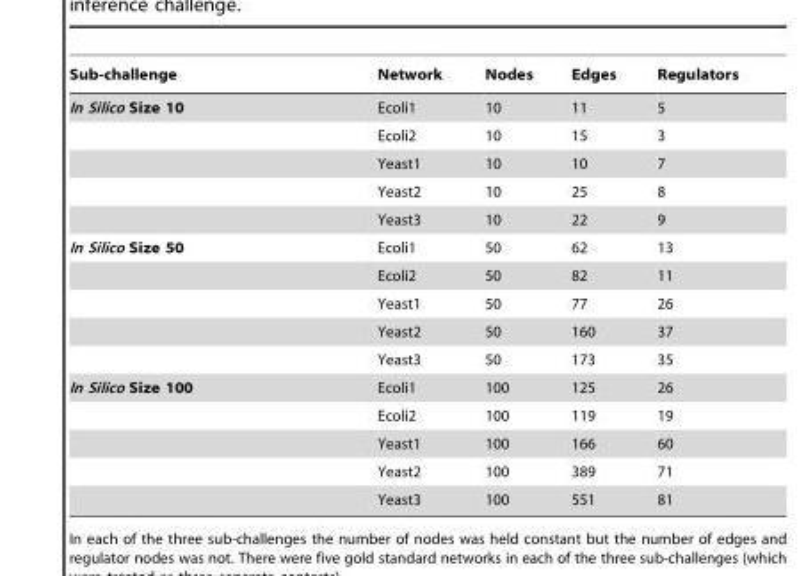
<table><thead><tr><td>Sub-challenge</td><td>Network</td><td>Nodes</td><td>Edges</td><td>Regulators</td></tr></thead><tbody><tr><td rowspan="5">In Silico Size 10</td><td>Ecoli1</td><td>10</td><td>11</td><td>5</td></tr><tr><td>Ecoli2</td><td>10</td><td>15</td><td>3</td></tr><tr><td>Yeast1</td><td>10</td><td>10</td><td>7</td></tr><tr><td>Yeast2</td><td>10</td><td>25</td><td>8</td></tr><tr><td>Yeast3</td><td>10</td><td>22</td><td>9</td></tr><tr><td rowspan="5">In Silico Size 50</td><td>Ecoli1</td><td>50</td><td>62</td><td>13</td></tr><tr><td>Ecoli2</td><td>50</td><td>82</td><td>11</td></tr><tr><td>Yeast1</td><td>50</td><td>77</td><td>26</td></tr><tr><td>Yeast2</td><td>50</td><td>160</td><td>37</td></tr><tr><td>Yeast3</td><td>50</td><td>173</td><td>35</td></tr><tr><td rowspan="5">In Silico Size 100</td><td>Ecoli1</td><td>100</td><td>125</td><td>26</td></tr><tr><td>Ecoli2</td><td>100</td><td>119</td><td>19</td></tr><tr><td>Yeast1</td><td>100</td><td>166</td><td>60</td></tr><tr><td>Yeast2</td><td>100</td><td>389</td><td>71</td></tr><tr><td>Yeast3</td><td>100</td><td>551</td><td>81</td></tr></tbody></table>